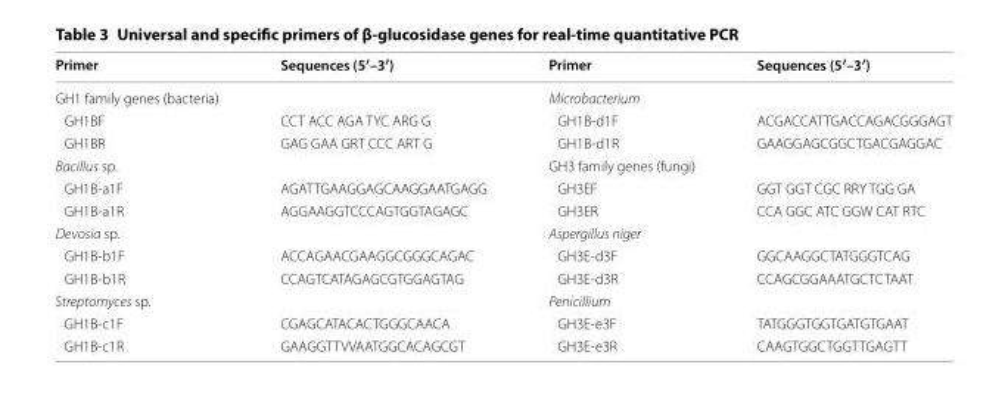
<table><thead><tr><td>Primer</td><td>Sequences (5′–3′)</td><td>Primer</td><td>Sequences (5′–3′)</td></tr></thead><tbody><tr><td colspan="2">GH1 family genes (bacteria)</td><td colspan="2">Microbacterium</td></tr><tr><td>GH1BF</td><td>CCT ACC AGA TYC ARG G</td><td>GH1B-d1F</td><td>ACG ACC ATT GAC CAG ACG GGAGT</td></tr><tr><td>GH1BR</td><td>GAG GAA GRT CCC ART G</td><td>GH1B-d1R</td><td>GAA GGA GCG GCT GAC GAG GAC</td></tr><tr><td colspan="2">Bacillus sp.</td><td colspan="2">GH3 family genes (fungi)</td></tr><tr><td>GH1B-a1F</td><td>AGA TTG AAG GAG CAA GGA ATG AGG</td><td>GH3EF</td><td>GGT GGT CGC RRY TGG GA</td></tr><tr><td>GH1B-a1R</td><td>AGG AAG GTC CCA GTG GTA GAGC</td><td>GH3ER</td><td>CCA GGC ATC GGW CAT RTC</td></tr><tr><td colspan="2">Devosia sp.</td><td colspan="2">Aspergillus niger</td></tr><tr><td>GH1B-b1F</td><td>ACC AGA ACG AAG GCG GGC AGAC</td><td>GH3E-d3F</td><td>GGC AAG GCT ATG GGT CAG</td></tr><tr><td>GH1B-b1R</td><td>CCA GTC ATA GAG CGT GGA GTAG</td><td>GH3E-d3R</td><td>CCA GCG GAA ATG CTC TAA T</td></tr><tr><td colspan="2">Streptomyces sp.</td><td colspan="2">Penicillium</td></tr><tr><td>GH1B-c1F</td><td>CGA GCA TAC ACT GGG CAA CA</td><td>GH3E-e3F</td><td>TAT GGG TGG TGA TGT GAA T</td></tr><tr><td>GH1B-c1R</td><td>GAA GGT TVVAAT GGC ACA GCG T</td><td>GH3E-e3R</td><td>CAA GTG GCT GGT TGA GTT</td></tr></tbody></table>